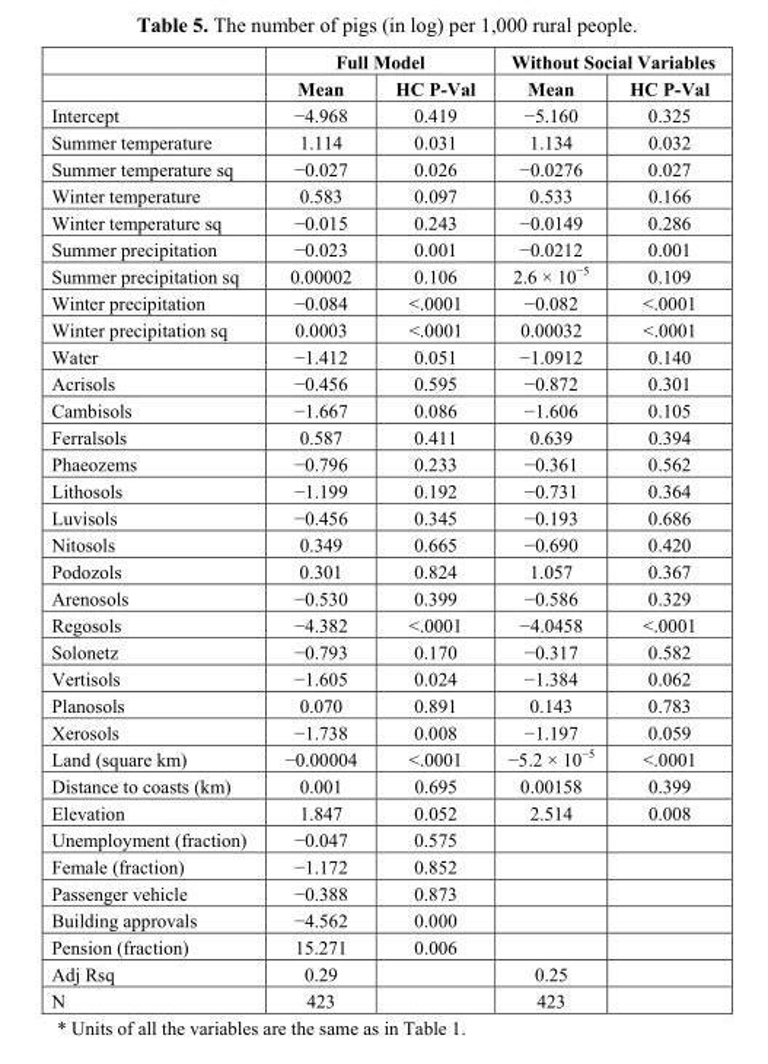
<table><thead><tr><td rowspan="2"></td><td colspan="2">Full Model</td><td colspan="2">Without Social Variables</td></tr><tr><td>Mean</td><td>HC P-Val</td><td>Mean</td><td>HC P-Val</td></tr></thead><tbody><tr><td>Intercept</td><td>−4.968</td><td>0.419</td><td>−5.160</td><td>0.325</td></tr><tr><td>Summer temperature</td><td>1.114</td><td>0.031</td><td>1.134</td><td>0.032</td></tr><tr><td>Summer temperature sq</td><td>−0.027</td><td>0.026</td><td>−0.0276</td><td>0.027</td></tr><tr><td>Winter temperature</td><td>0.583</td><td>0.097</td><td>0.533</td><td>0.166</td></tr><tr><td>Winter temperature sq</td><td>−0.015</td><td>0.243</td><td>−0.0149</td><td>0.286</td></tr><tr><td>Summer precipitation</td><td>−0.023</td><td>0.001</td><td>−0.0212</td><td>0.001</td></tr><tr><td>Summer precipitation sq</td><td>0.00002</td><td>0.106</td><td>2.6 × 10<sup>−5</sup></td><td>0.109</td></tr><tr><td>Winter precipitation</td><td>−0.084</td><td>&lt;.0001</td><td>−0.082</td><td>&lt;.0001</td></tr><tr><td>Winter precipitation sq</td><td>0.0003</td><td>&lt;.0001</td><td>0.00032</td><td>&lt;.0001</td></tr><tr><td>Water</td><td>−1.412</td><td>0.051</td><td>−1.0912</td><td>0.140</td></tr><tr><td>Acrisols</td><td>−0.456</td><td>0.595</td><td>−0.872</td><td>0.301</td></tr><tr><td>Cambisols</td><td>−1.667</td><td>0.086</td><td>−1.606</td><td>0.105</td></tr><tr><td>Ferralsols</td><td>0.587</td><td>0.411</td><td>0.639</td><td>0.394</td></tr><tr><td>Phaeozems</td><td>−0.796</td><td>0.233</td><td>−0.361</td><td>0.562</td></tr><tr><td>Lithosols</td><td>−1.199</td><td>0.192</td><td>−0.731</td><td>0.364</td></tr><tr><td>Luvisols</td><td>−0.456</td><td>0.345</td><td>−0.193</td><td>0.686</td></tr><tr><td>Nitosols</td><td>0.349</td><td>0.665</td><td>−0.690</td><td>0.420</td></tr><tr><td>Podozols</td><td>0.301</td><td>0.824</td><td>1.057</td><td>0.367</td></tr><tr><td>Arenosols</td><td>−0.530</td><td>0.399</td><td>−0.586</td><td>0.329</td></tr><tr><td>Regosols</td><td>−4.382</td><td>&lt;.0001</td><td>−4.0458</td><td>&lt;.0001</td></tr><tr><td>Solonetz</td><td>−0.793</td><td>0.170</td><td>−0.317</td><td>0.582</td></tr><tr><td>Vertisols</td><td>−1.605</td><td>0.024</td><td>−1.384</td><td>0.062</td></tr><tr><td>Planosols</td><td>0.070</td><td>0.891</td><td>0.143</td><td>0.783</td></tr><tr><td>Xerosols</td><td>−1.738</td><td>0.008</td><td>−1.197</td><td>0.059</td></tr><tr><td>Land (square km)</td><td>−0.00004</td><td>&lt;.0001</td><td>−5.2 × 10<sup>−5</sup></td><td>&lt;.0001</td></tr><tr><td>Distance to coasts (km)</td><td>0.001</td><td>0.695</td><td>0.00158</td><td>0.399</td></tr><tr><td>Elevation</td><td>1.847</td><td>0.052</td><td>2.514</td><td>0.008</td></tr><tr><td>Unemployment (fraction)</td><td>−0.047</td><td>0.575</td><td></td><td></td></tr><tr><td>Female (fraction)</td><td>−1.172</td><td>0.852</td><td></td><td></td></tr><tr><td>Passenger vehicle</td><td>−0.388</td><td>0.873</td><td></td><td></td></tr><tr><td>Building approvals</td><td>−4.562</td><td>0.000</td><td></td><td></td></tr><tr><td>Pension (fraction)</td><td>15.271</td><td>0.006</td><td></td><td></td></tr><tr><td>Adj Rsq</td><td>0.29</td><td></td><td>0.25</td><td></td></tr><tr><td>N</td><td>423</td><td></td><td>423</td><td></td></tr></tbody></table>